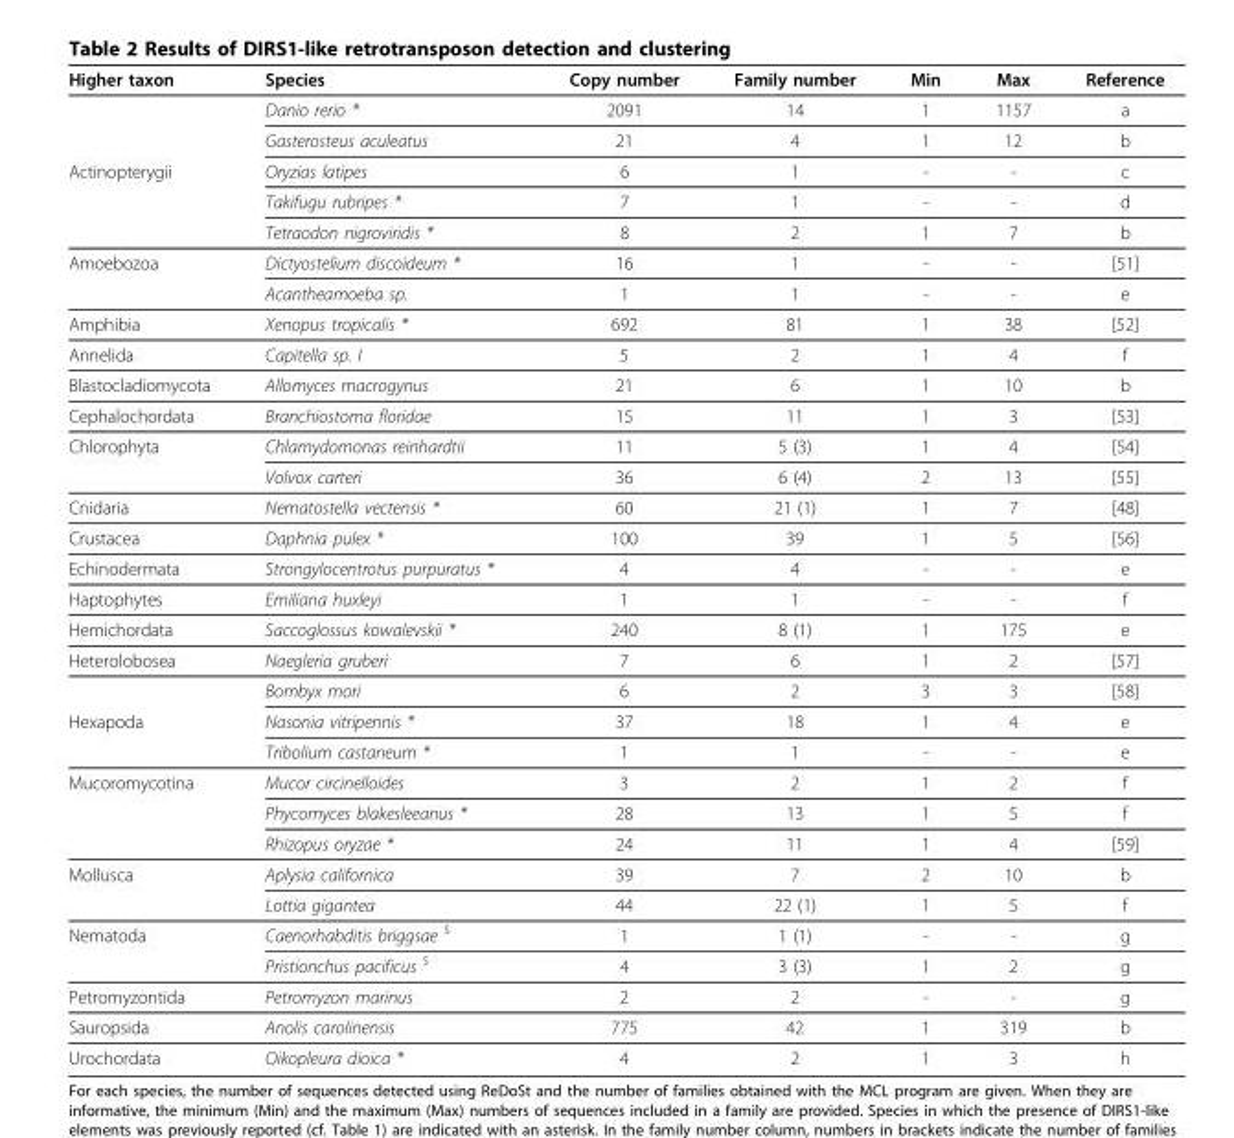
<table><thead><tr><td>Higher taxon</td><td>Species</td><td>Copy number</td><td>Family number</td><td>Min</td><td>Max</td><td>Reference</td></tr></thead><tbody><tr><td></td><td>Danio rerio *</td><td>2091</td><td>14</td><td>1</td><td>1157</td><td>a</td></tr><tr><td></td><td>Gasterosteus aculeatus</td><td>21</td><td>4</td><td>1</td><td>12</td><td>b</td></tr><tr><td rowspan="3">Actinopterygii</td><td>Oryzias latipes</td><td>6</td><td>1</td><td>-</td><td>-</td><td>c</td></tr><tr><td>Takifugu rubripes *</td><td>7</td><td>1</td><td>-</td><td>-</td><td>d</td></tr><tr><td>Tetraodon nigroviridis *</td><td>8</td><td>2</td><td>1</td><td>7</td><td>b</td></tr><tr><td rowspan="2">Amoebozoa</td><td>Dictyostelium discoideum *</td><td>16</td><td>1</td><td>-</td><td>-</td><td>[51]</td></tr><tr><td>Acantheamoeba sp.</td><td>1</td><td>1</td><td>-</td><td>-</td><td>e</td></tr><tr><td>Amphibia</td><td>Xenopus tropicalis *</td><td>692</td><td>81</td><td>1</td><td>38</td><td>[52]</td></tr><tr><td>Annelida</td><td>Capitella sp. I</td><td>5</td><td>2</td><td>1</td><td>4</td><td>f</td></tr><tr><td>Blastocladiomycota</td><td>Allomyces macrogynus</td><td>21</td><td>6</td><td>1</td><td>10</td><td>b</td></tr><tr><td>Cephalochordata</td><td>Branchiostoma floridae</td><td>15</td><td>11</td><td>1</td><td>3</td><td>[53]</td></tr><tr><td rowspan="2">Chlorophyta</td><td>Chlamydomonas reinhardtii</td><td>11</td><td>5 (3)</td><td>1</td><td>4</td><td>[54]</td></tr><tr><td>Volvox carteri</td><td>36</td><td>6 (4)</td><td>2</td><td>13</td><td>[55]</td></tr><tr><td>Cnidaria</td><td>Nematostella vectensis *</td><td>60</td><td>21 (1)</td><td>1</td><td>7</td><td>[48]</td></tr><tr><td>Crustacea</td><td>Daphnia pulex *</td><td>100</td><td>39</td><td>1</td><td>5</td><td>[56]</td></tr><tr><td>Echinodermata</td><td>Strongylocentrotus purpuratus *</td><td>4</td><td>4</td><td>-</td><td>-</td><td>e</td></tr><tr><td>Haptophytes</td><td>Emiliana huxleyi</td><td>1</td><td>1</td><td>-</td><td>-</td><td>f</td></tr><tr><td>Hemichordata</td><td>Saccoglossus kowalevskii *</td><td>240</td><td>8 (1)</td><td>1</td><td>175</td><td>e</td></tr><tr><td rowspan="2">Heterolobosea</td><td>Naegleria gruberi</td><td>7</td><td>6</td><td>1</td><td>2</td><td>[57]</td></tr><tr><td>Bombyx mori</td><td>6</td><td>2</td><td>3</td><td>3</td><td>[58]</td></tr><tr><td rowspan="2">Hexapoda</td><td>Nasonia vitripennis *</td><td>37</td><td>18</td><td>1</td><td>4</td><td>e</td></tr><tr><td>Tribolium castaneum *</td><td>1</td><td>1</td><td>-</td><td>-</td><td>e</td></tr><tr><td rowspan="3">Mucoromycotina</td><td>Mucor circinelloides</td><td>3</td><td>2</td><td>1</td><td>2</td><td>f</td></tr><tr><td>Phycomyces blakesleeanus *</td><td>28</td><td>13</td><td>1</td><td>5</td><td>f</td></tr><tr><td>Rhizopus oryzae *</td><td>24</td><td>11</td><td>1</td><td>4</td><td>[59]</td></tr><tr><td rowspan="2">Mollusca</td><td>Aplysia californica</td><td>39</td><td>7</td><td>2</td><td>10</td><td>b</td></tr><tr><td>Lottia gigantea</td><td>44</td><td>22 (1)</td><td>1</td><td>5</td><td>f</td></tr><tr><td rowspan="2">Nematoda</td><td>Caenorhabditis briggsae <sup>$</sup></td><td>1</td><td>1 (1)</td><td>-</td><td>-</td><td>g</td></tr><tr><td>Pristionchus pacificus <sup>$</sup></td><td>4</td><td>3 (3)</td><td>1</td><td>2</td><td>g</td></tr><tr><td>Petromyzontida</td><td>Petromyzon marinus</td><td>2</td><td>2</td><td>-</td><td>-</td><td>g</td></tr><tr><td>Sauropsida</td><td>Anolis carolinensis</td><td>775</td><td>42</td><td>1</td><td>319</td><td>b</td></tr><tr><td>Urochordata</td><td>Oikopleura dioica *</td><td>4</td><td>2</td><td>1</td><td>3</td><td>h</td></tr></tbody></table>